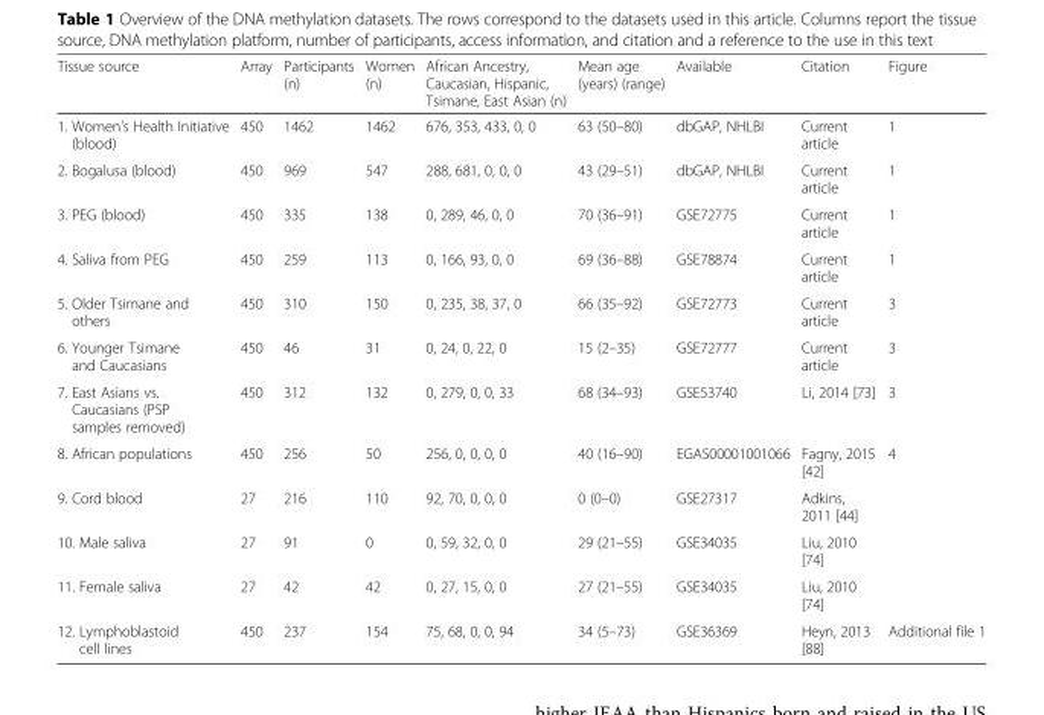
<table><thead><tr><td>Tissue source</td><td>Array</td><td>Participants (n)</td><td>Women (n)</td><td>African Ancestry, Caucasian, Hispanic, Tsimane, East Asian (n)</td><td>Mean age (years) (range)</td><td>Available</td><td>Citation</td><td>Figure</td></tr></thead><tbody><tr><td>1. Women’s Health Initiative (blood)</td><td>450</td><td>1462</td><td>1462</td><td>676, 353, 433, 0, 0</td><td>63 (50–80)</td><td>dbGAP, NHLBI</td><td>Current article</td><td>1</td></tr><tr><td>2. Bogalusa (blood)</td><td>450</td><td>969</td><td>547</td><td>288, 681, 0, 0, 0</td><td>43 (29–51)</td><td>dbGAP, NHLBI</td><td>Current article</td><td>1</td></tr><tr><td>3. PEG (blood)</td><td>450</td><td>335</td><td>138</td><td>0, 289, 46, 0, 0</td><td>70 (36–91)</td><td>GSE72775</td><td>Current article</td><td>1</td></tr><tr><td>4. Saliva from PEG</td><td>450</td><td>259</td><td>113</td><td>0, 166, 93, 0, 0</td><td>69 (36–88)</td><td>GSE78874</td><td>Current article</td><td>1</td></tr><tr><td>5. Older Tsimane and others</td><td>450</td><td>310</td><td>150</td><td>0, 235, 38, 37, 0</td><td>66 (35–92)</td><td>GSE72773</td><td>Current article</td><td>3</td></tr><tr><td>6. Younger Tsimane and Caucasians</td><td>450</td><td>46</td><td>31</td><td>0, 24, 0, 22, 0</td><td>15 (2–35)</td><td>GSE72777</td><td>Current article</td><td>3</td></tr><tr><td>7. East Asians vs. Caucasians (PSP samples removed)</td><td>450</td><td>312</td><td>132</td><td>0, 279, 0, 0, 33</td><td>68 (34–93)</td><td>GSE53740</td><td>Li, 2014 [73]</td><td>3</td></tr><tr><td>8. African populations</td><td>450</td><td>256</td><td>50</td><td>256, 0, 0, 0, 0</td><td>40 (16–90)</td><td>EGAS00001001066</td><td>Fagny, 2015 [42]</td><td>4</td></tr><tr><td>9. Cord blood</td><td>27</td><td>216</td><td>110</td><td>92, 70, 0, 0, 0</td><td>0 (0–0)</td><td>GSE27317</td><td>Adkins, 2011 [44]</td><td></td></tr><tr><td>10. Male saliva</td><td>27</td><td>91</td><td>0</td><td>0, 59, 32, 0, 0</td><td>29 (21–55)</td><td>GSE34035</td><td>Liu, 2010 [74]</td><td></td></tr><tr><td>11. Female saliva</td><td>27</td><td>42</td><td>42</td><td>0, 27, 15, 0, 0</td><td>27 (21–55)</td><td>GSE34035</td><td>Liu, 2010 [74]</td><td></td></tr><tr><td>12. Lymphoblastoid cell lines</td><td>450</td><td>237</td><td>154</td><td>75, 68, 0, 0, 94</td><td>34 (5–73)</td><td>GSE36369</td><td>Heyn, 2013 [88]</td><td>Additional file 1</td></tr></tbody></table>